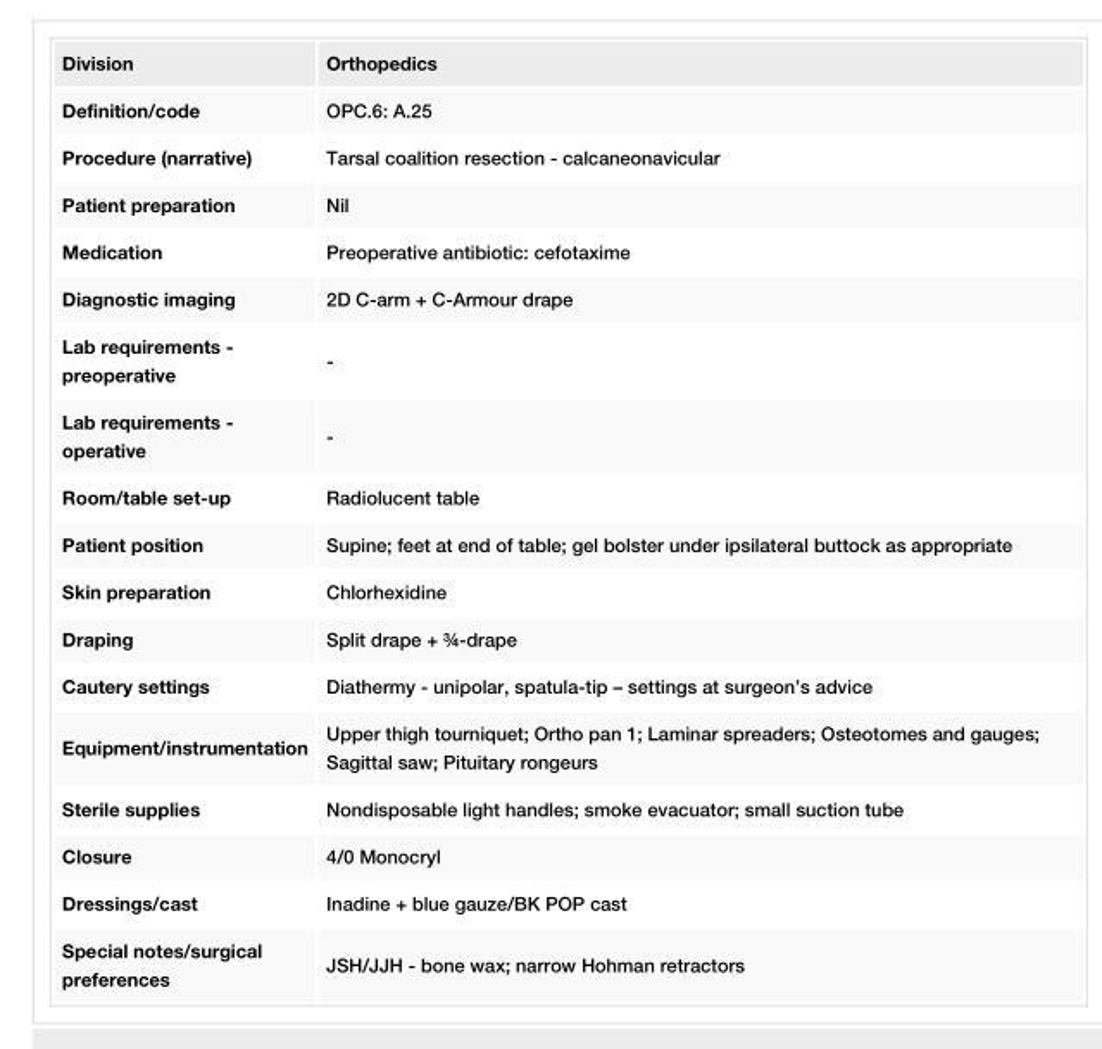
<table><tbody><tr><td>Division</td><td>Orthopedics</td></tr><tr><td>Definition/code</td><td>OPC.6: A.25</td></tr><tr><td>Procedure (narrative)</td><td>Tarsal coalition resection - calcaneonavicular</td></tr><tr><td>Patient preparation</td><td>Nil</td></tr><tr><td>Medication</td><td>Preoperative antibiotic: cefotaxime</td></tr><tr><td>Diagnostic imaging</td><td>2D C-arm + C-Armour drape</td></tr><tr><td>Lab requirements - preoperative</td><td>-</td></tr><tr><td>Lab requirements - operative</td><td>-</td></tr><tr><td>Room/table set-up</td><td>Radiolucent table</td></tr><tr><td>Patient position</td><td>Supine; feet at end of table; gel bolster under ipsilateral buttock as appropriate</td></tr><tr><td>Skin preparation</td><td>Chlorhexidine</td></tr><tr><td>Draping</td><td>Split drape + ¾-drape</td></tr><tr><td>Cautery settings</td><td>Diathermy - unipolar, spatula-tip – settings at surgeon’s advice</td></tr><tr><td>Equipment/instrumentation</td><td>Upper thigh tourniquet; Ortho pan 1; Laminar spreaders; Osteotomes and gauges; Sagittal saw; Pituitary rongeurs</td></tr><tr><td>Sterile supplies</td><td>Nondisposable light handles; smoke evacuator; small suction tube</td></tr><tr><td>Closure</td><td>4/0 Monocryl</td></tr><tr><td>Dressings/cast</td><td>Inadine + blue gauze/BK POP cast</td></tr><tr><td>Special notes/surgical preferences</td><td>JSH/JJH - bone wax; narrow Hohman retractors</td></tr></tbody></table>